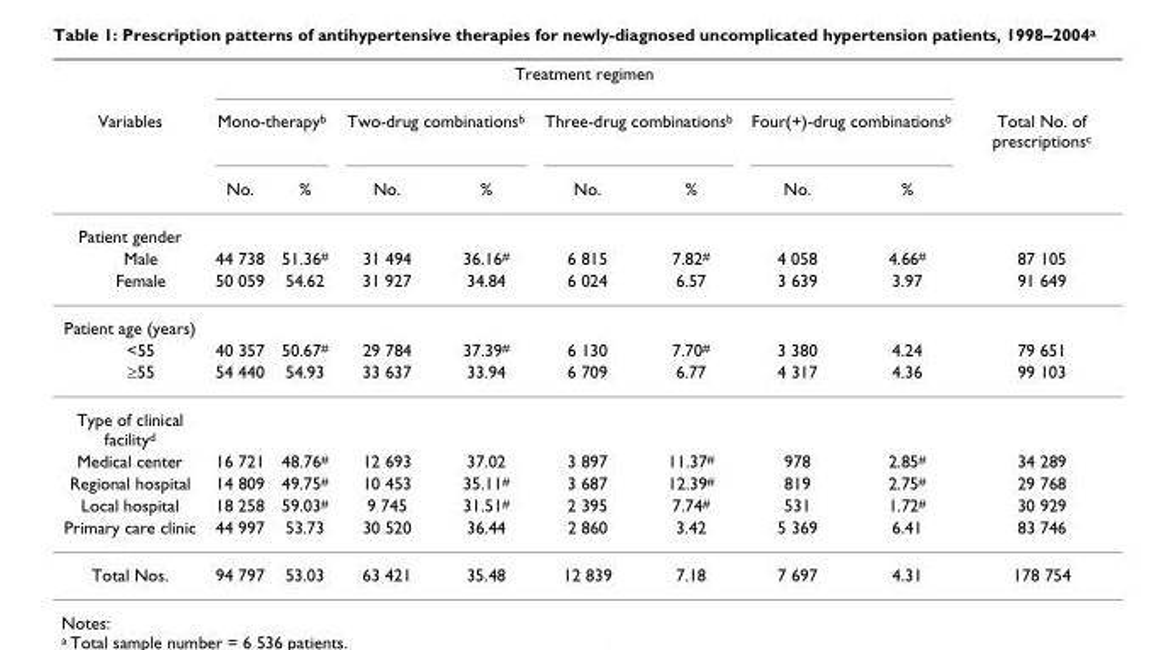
<table><thead><tr><td rowspan="3">Variables</td><td colspan="8">Treatment regimen</td><td rowspan="3">Total No. of prescriptions<sup>c</sup></td></tr><tr><td colspan="2">Mono-therapy<sup>b</sup></td><td colspan="2">Two-drug combinations<sup>b</sup></td><td colspan="2">Three-drug combinations<sup>b</sup></td><td colspan="2">Four(+)-drug combinations<sup>b</sup></td></tr><tr><td>No.</td><td>%</td><td>No.</td><td>%</td><td>No.</td><td>%</td><td>No.</td><td>%</td></tr></thead><tbody><tr><td colspan="10">Patient gender</td></tr><tr><td>Male</td><td>44 738</td><td>51.36<sup>#</sup></td><td>31 494</td><td>36.16<sup>#</sup></td><td>6 815</td><td>7.82<sup>#</sup></td><td>4 058</td><td>4.66<sup>#</sup></td><td>87 105</td></tr><tr><td>Female</td><td>50 059</td><td>54.62</td><td>31 927</td><td>34.84</td><td>6 024</td><td>6.57</td><td>3 639</td><td>3.97</td><td>91 649</td></tr><tr><td colspan="10">Patient age (years)</td></tr><tr><td>&lt;55</td><td>40 357</td><td>50.67<sup>#</sup></td><td>29 784</td><td>37.39<sup>#</sup></td><td>6 130</td><td>7.70<sup>#</sup></td><td>3 380</td><td>4.24</td><td>79 651</td></tr><tr><td>≥55</td><td>54 440</td><td>54.93</td><td>33 637</td><td>33.94</td><td>6 709</td><td>6.77</td><td>4 317</td><td>4.36</td><td>99 103</td></tr><tr><td colspan="10">Type of clinical facility<sup>d</sup></td></tr><tr><td>Medical center</td><td>16 721</td><td>48.76<sup>#</sup></td><td>12 693</td><td>37.02</td><td>3 897</td><td>11.37<sup>#</sup></td><td>978</td><td>2.85<sup>#</sup></td><td>34 289</td></tr><tr><td>Regional hospital</td><td>14 809</td><td>49.75<sup>#</sup></td><td>10 453</td><td>35.11<sup>#</sup></td><td>3 687</td><td>12.39<sup>#</sup></td><td>819</td><td>2.75<sup>#</sup></td><td>29 768</td></tr><tr><td>Local hospital</td><td>18 258</td><td>59.03<sup>#</sup></td><td>9 745</td><td>31.51<sup>#</sup></td><td>2 395</td><td>7.74<sup>#</sup></td><td>531</td><td>1.72<sup>#</sup></td><td>30 929</td></tr><tr><td>Primary care clinic</td><td>44 997</td><td>53.73</td><td>30 520</td><td>36.44</td><td>2 860</td><td>3.42</td><td>5 369</td><td>6.41</td><td>83 746</td></tr><tr><td>Total Nos.</td><td>94 797</td><td>53.03</td><td>63 421</td><td>35.48</td><td>12 839</td><td>7.18</td><td>7 697</td><td>4.31</td><td>178 754</td></tr></tbody></table>